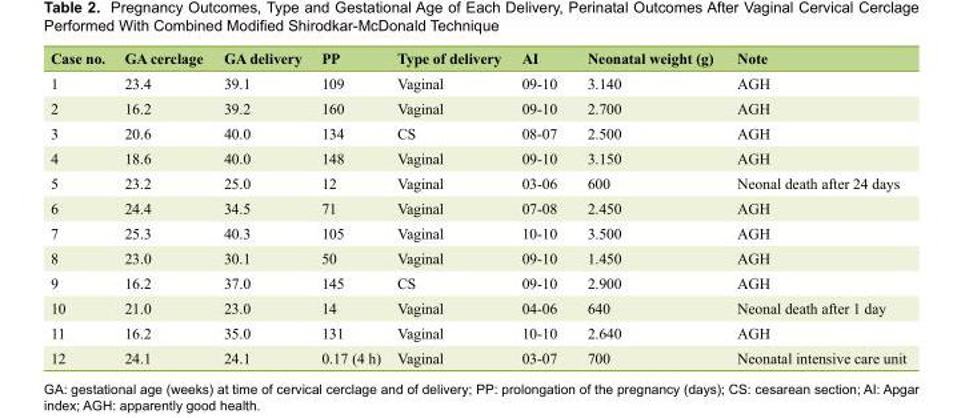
<table><thead><tr><td>Case no.</td><td>GA cerclage</td><td>GA delivery</td><td>PP</td><td>Type of delivery</td><td>AI</td><td>Neonatal weight (g)</td><td>Note</td></tr></thead><tbody><tr><td>1</td><td>23.4</td><td>39.1</td><td>109</td><td>Vaginal</td><td>09-10</td><td>3.140</td><td>AGH</td></tr><tr><td>2</td><td>16.2</td><td>39.2</td><td>160</td><td>Vaginal</td><td>09-10</td><td>2.700</td><td>AGH</td></tr><tr><td>3</td><td>20.6</td><td>40.0</td><td>134</td><td>CS</td><td>08-07</td><td>2.500</td><td>AGH</td></tr><tr><td>4</td><td>18.6</td><td>40.0</td><td>148</td><td>Vaginal</td><td>09-10</td><td>3.150</td><td>AGH</td></tr><tr><td>5</td><td>23.2</td><td>25.0</td><td>12</td><td>Vaginal</td><td>03-06</td><td>600</td><td>Neonal death after 24 days</td></tr><tr><td>6</td><td>24.4</td><td>34.5</td><td>71</td><td>Vaginal</td><td>07-08</td><td>2.450</td><td>AGH</td></tr><tr><td>7</td><td>25.3</td><td>40.3</td><td>105</td><td>Vaginal</td><td>10-10</td><td>3.500</td><td>AGH</td></tr><tr><td>8</td><td>23.0</td><td>30.1</td><td>50</td><td>Vaginal</td><td>09-10</td><td>1.450</td><td>AGH</td></tr><tr><td>9</td><td>16.2</td><td>37.0</td><td>145</td><td>CS</td><td>09-10</td><td>2.900</td><td>AGH</td></tr><tr><td>10</td><td>21.0</td><td>23.0</td><td>14</td><td>Vaginal</td><td>04-06</td><td>640</td><td>Neonal death after 1 day</td></tr><tr><td>11</td><td>16.2</td><td>35.0</td><td>131</td><td>Vaginal</td><td>10-10</td><td>2.640</td><td>AGH</td></tr><tr><td>12</td><td>24.1</td><td>24.1</td><td>0.17 (4 h)</td><td>Vaginal</td><td>03-07</td><td>700</td><td>Neonatal intensive care unit</td></tr></tbody></table>